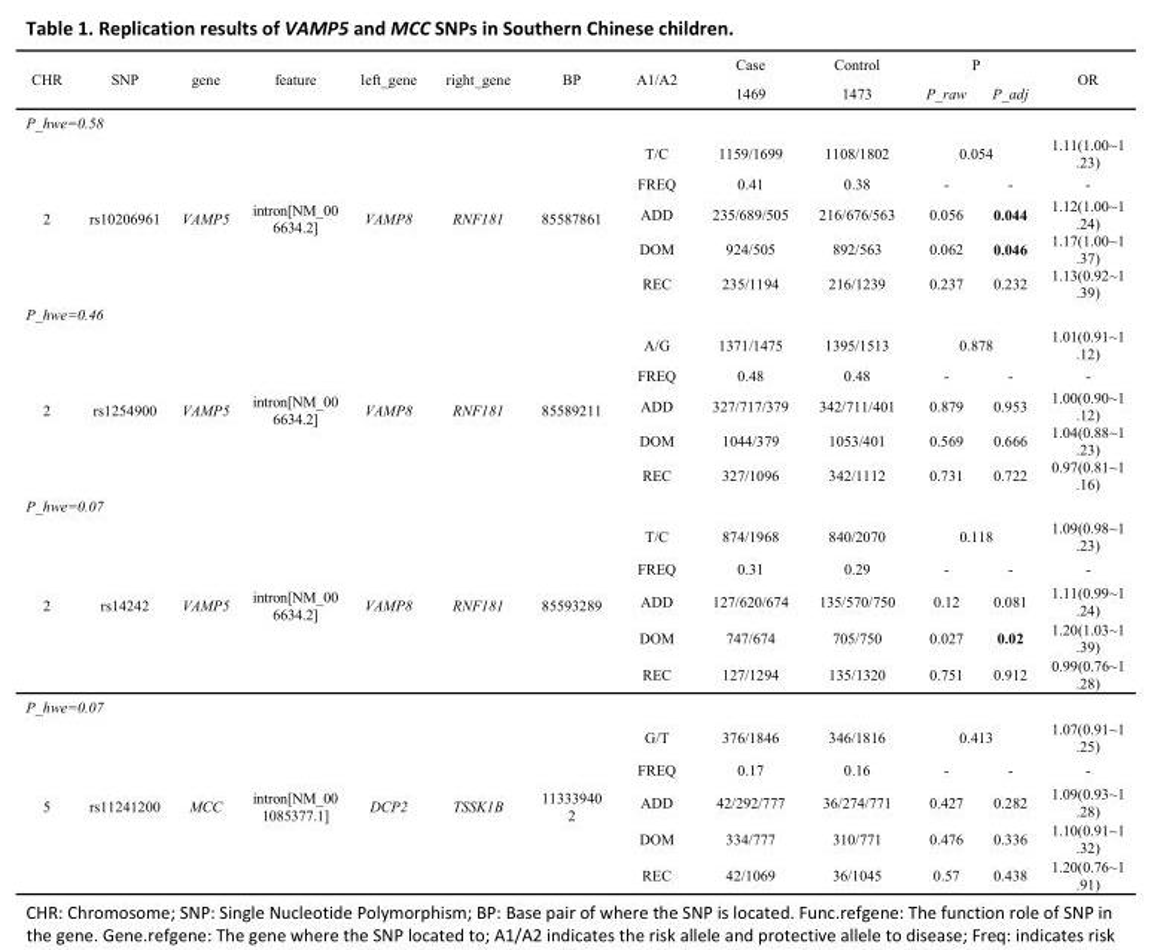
<table><tbody><tr><td rowspan="2">CHR</td><td rowspan="2">SNP</td><td rowspan="2">gene</td><td rowspan="2">feature</td><td rowspan="2">left_gene</td><td rowspan="2">right_gene</td><td rowspan="2">BP</td><td rowspan="2">A1/A2</td><td>Case</td><td>Control</td><td colspan="2">P</td><td rowspan="2">OR</td></tr><tr><td>1469</td><td>1473</td><td>P_raw</td><td>P_adj</td></tr><tr><td colspan="13">P_hwe=0.58</td></tr><tr><td rowspan="5">2</td><td rowspan="5">rs10206961</td><td rowspan="5">VAMP5</td><td rowspan="5">intron[NM_00 6634.2]</td><td rowspan="5">VAMP8</td><td rowspan="5">RNF181</td><td rowspan="5">85587861</td><td>T/C</td><td>1159/1699</td><td>1108/1802</td><td colspan="2">0.054</td><td>1.11(1.00~1 .23)</td></tr><tr><td>FREQ</td><td>0.41</td><td>0.38</td><td>-</td><td>-</td><td>-</td></tr><tr><td>ADD</td><td>235/689/505</td><td>216/676/563</td><td>0.056</td><td>0.044</td><td>1.12(1.00~1 .24)</td></tr><tr><td>DOM</td><td>924/505</td><td>892/563</td><td>0.062</td><td>0.046</td><td>1.17(1.00~1 .37)</td></tr><tr><td>REC</td><td>235/1194</td><td>216/1239</td><td>0.237</td><td>0.232</td><td>1.13(0.92~1 .39)</td></tr><tr><td colspan="13">P_hwe=0.46</td></tr><tr><td rowspan="5">2</td><td rowspan="5">rs1254900</td><td rowspan="5">VAMP5</td><td rowspan="5">intron[NM_00 6634.2]</td><td rowspan="5">VAMP8</td><td rowspan="5">RNF181</td><td rowspan="5">85589211</td><td>A/G</td><td>1371/1475</td><td>1395/1513</td><td colspan="2">0.878</td><td>1.01(0.91~1 .12)</td></tr><tr><td>FREQ</td><td>0.48</td><td>0.48</td><td>-</td><td>-</td><td>-</td></tr><tr><td>ADD</td><td>327/717/379</td><td>342/711/401</td><td>0.879</td><td>0.953</td><td>1.00(0.90~1 .12)</td></tr><tr><td>DOM</td><td>1044/379</td><td>1053/401</td><td>0.569</td><td>0.666</td><td>1.04(0.88~1 .23)</td></tr><tr><td>REC</td><td>327/1096</td><td>342/1112</td><td>0.731</td><td>0.722</td><td>0.97(0.81~1 .16)</td></tr><tr><td colspan="13">P_hwe=0.07</td></tr><tr><td rowspan="5">2</td><td rowspan="5">rs14242</td><td rowspan="5">VAMP5</td><td rowspan="5">intron[NM_00 6634.2]</td><td rowspan="5">VAMP8</td><td rowspan="5">RNF181</td><td rowspan="5">85593289</td><td>T/C</td><td>874/1968</td><td>840/2070</td><td colspan="2">0.118</td><td>1.09(0.98~1 .23)</td></tr><tr><td>FREQ</td><td>0.31</td><td>0.29</td><td>-</td><td>-</td><td>-</td></tr><tr><td>ADD</td><td>127/620/674</td><td>135/570/750</td><td>0.12</td><td>0.081</td><td>1.11(0.99~1 .24)</td></tr><tr><td>DOM</td><td>747/674</td><td>705/750</td><td>0.027</td><td>0.02</td><td>1.20(1.03~1 .39)</td></tr><tr><td>REC</td><td>127/1294</td><td>135/1320</td><td>0.751</td><td>0.912</td><td>0.99(0.76~1 .28)</td></tr><tr><td colspan="13">P_hwe=0.07</td></tr><tr><td rowspan="5">5</td><td rowspan="5">rs11241200</td><td rowspan="5">MCC</td><td rowspan="5">intron[NM_00 1085377.1]</td><td rowspan="5">DCP2</td><td rowspan="5">TSSK1B</td><td rowspan="5">11333940 2</td><td>G/T</td><td>376/1846</td><td>346/1816</td><td colspan="2">0.413</td><td>1.07(0.91~1 .25)</td></tr><tr><td>FREQ</td><td>0.17</td><td>0.16</td><td>-</td><td>-</td><td>-</td></tr><tr><td>ADD</td><td>42/292/777</td><td>36/274/771</td><td>0.427</td><td>0.282</td><td>1.09(0.93~1 .28)</td></tr><tr><td>DOM</td><td>334/777</td><td>310/771</td><td>0.476</td><td>0.336</td><td>1.10(0.91~1 .32)</td></tr><tr><td>REC</td><td>42/1069</td><td>36/1045</td><td>0.57</td><td>0.438</td><td>1.20(0.76~1 .91)</td></tr></tbody></table>